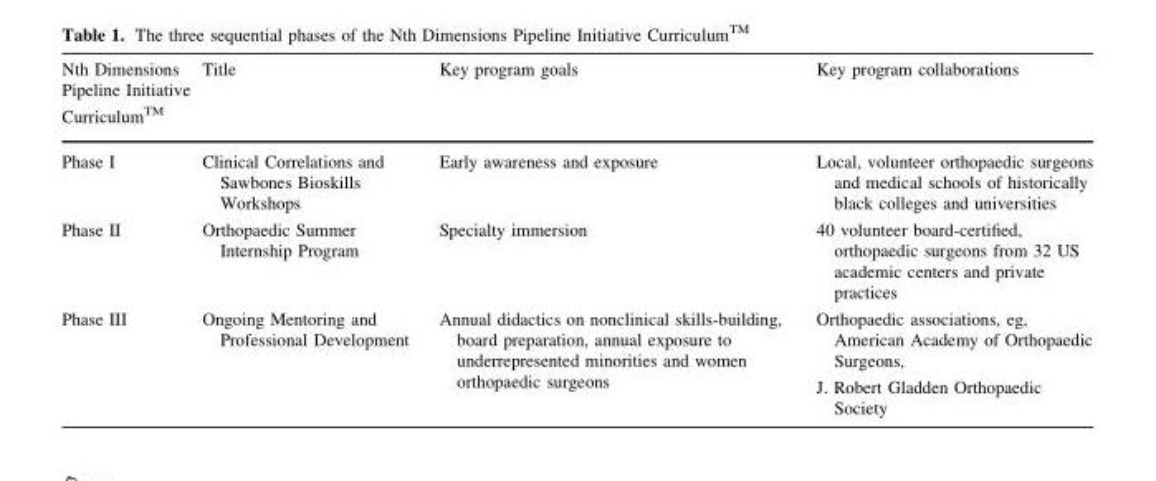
<table><thead><tr><td>Nth Dimensions Pipeline Initiative Curriculum<sup>TM</sup></td><td>Title</td><td>Key program goals</td><td>Key program collaborations</td></tr></thead><tbody><tr><td>Phase I</td><td>Clinical Correlations and Sawbones Bioskills Workshops</td><td>Early awareness and exposure</td><td>Local, volunteer orthopaedic surgeons and medical schools of historically black colleges and universities</td></tr><tr><td>Phase II</td><td>Orthopaedic Summer Internship Program</td><td>Specialty immersion</td><td>40 volunteer board-certified, orthopaedic surgeons from 32 US academic centers and private practices</td></tr><tr><td>Phase III</td><td>Ongoing Mentoring and Professional Development</td><td>Annual didactics on nonclinical skills-building, board preparation, annual exposure to underrepresented minorities and women orthopaedic surgeons</td><td>Orthopaedic associations, eg, American Academy of Orthopaedic Surgeons, J. Robert Gladden Orthopaedic Society</td></tr></tbody></table>